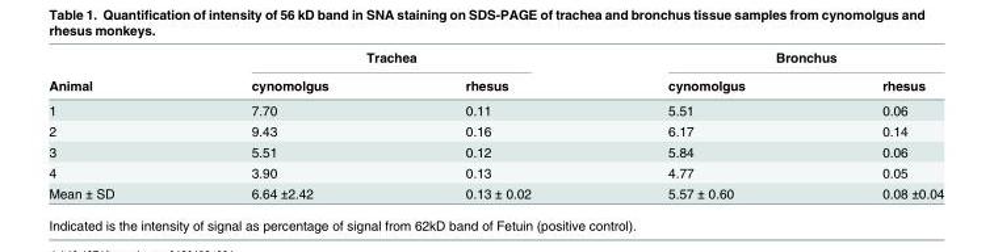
<table><thead><tr><td rowspan="2">Animal</td><td colspan="2">Trachea</td><td colspan="2">Bronchus</td></tr><tr><td>cynomolgus</td><td>rhesus</td><td>cynomolgus</td><td>rhesus</td></tr></thead><tbody><tr><td>1</td><td>7.70</td><td>0.11</td><td>5.51</td><td>0.06</td></tr><tr><td>2</td><td>9.43</td><td>0.16</td><td>6.17</td><td>0.14</td></tr><tr><td>3</td><td>5.51</td><td>0.12</td><td>5.84</td><td>0.06</td></tr><tr><td>4</td><td>3.90</td><td>0.13</td><td>4.77</td><td>0.05</td></tr><tr><td>Mean ± SD</td><td>6.64 ±2.42</td><td>0.13 ± 0.02</td><td>5.57 ± 0.60</td><td>0.08 ±0.04</td></tr></tbody></table>